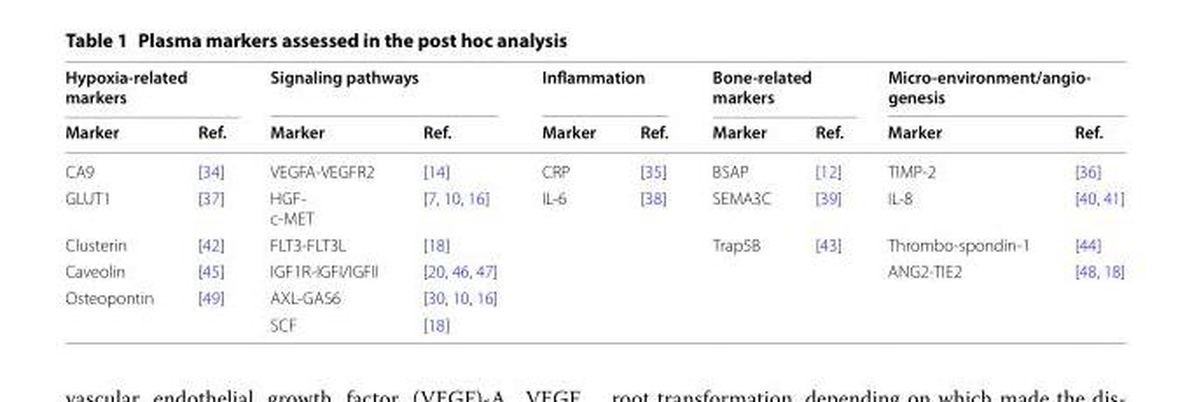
<table><thead><tr><td colspan="2">Hypoxia-related markers</td><td colspan="2">Signaling pathways</td><td colspan="2">Inflammation</td><td colspan="2">Bone-related markers</td><td colspan="2">Micro-environment/angio- genesis</td></tr><tr><td>Marker</td><td>Ref.</td><td>Marker</td><td>Ref.</td><td>Marker</td><td>Ref.</td><td>Marker</td><td>Ref.</td><td>Marker</td><td>Ref.</td></tr></thead><tbody><tr><td>CA9</td><td>[34]</td><td>VEGFA‑VEGFR2</td><td>[14]</td><td>CRP</td><td>[35]</td><td>BSAP</td><td>[12]</td><td>TIMP‑2</td><td>[36]</td></tr><tr><td>GLUT1</td><td>[37]</td><td>HGF‑ c‑MET</td><td>[7, 10, 16]</td><td>IL‑6</td><td>[38]</td><td>SEMA3C</td><td>[39]</td><td>IL‑8</td><td>[40, 41]</td></tr><tr><td>Clusterin</td><td>[42]</td><td>FLT3‑FLT3L</td><td>[18]</td><td rowspan="4" colspan="2"></td><td>Trap5B</td><td>[43]</td><td>Thrombo‑spondin‑1</td><td>[44]</td></tr><tr><td>Caveolin</td><td>[45]</td><td>IGF1R‑IGFI/IGFII</td><td>[20, 46, 47]</td><td rowspan="3" colspan="2"></td><td>ANG2‑TIE2</td><td>[48, 18]</td></tr><tr><td>Osteopontin</td><td>[49]</td><td>AXL‑GAS6</td><td>[30, 10, 16]</td><td rowspan="2" colspan="2"></td></tr><tr><td colspan="2"></td><td>SCF</td><td>[18]</td></tr></tbody></table>